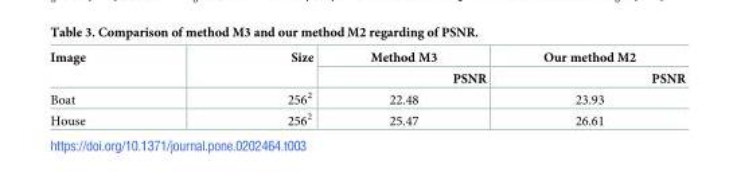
<table><thead><tr><td rowspan="2">Image</td><td rowspan="2">Size</td><td rowspan="2">Method M3 PSNR</td><td rowspan="2">Our method M2 PSNR</td></tr><tr></tr></thead><tbody><tr><td>Boat</td><td>256<sup>2</sup></td><td>22.48</td><td>23.93</td></tr><tr><td>House</td><td>256<sup>2</sup></td><td>25.47</td><td>26.61</td></tr></tbody></table>